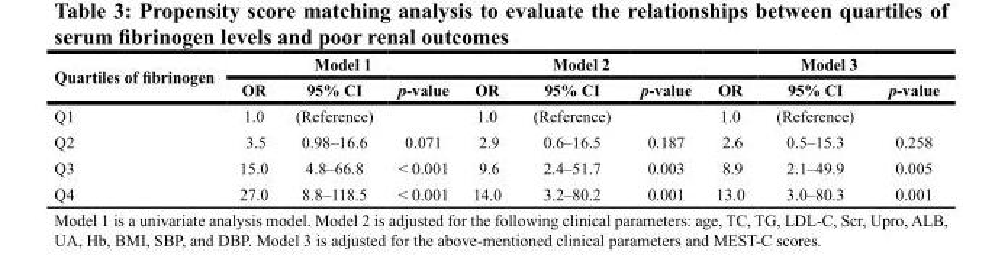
<table><thead><tr><td rowspan="2">Quartiles of fibrinogen</td><td colspan="3">Model 1</td><td colspan="3">Model 2</td><td colspan="3">Model 3</td></tr><tr><td>OR</td><td>95% CI</td><td>p-value</td><td>OR</td><td>95% CI</td><td>p-value</td><td>OR</td><td>95% CI</td><td>p-value</td></tr></thead><tbody><tr><td>Q1</td><td>1.0</td><td>(Reference)</td><td></td><td>1.0</td><td>(Reference)</td><td></td><td>1.0</td><td>(Reference)</td><td></td></tr><tr><td>Q2</td><td>3.5</td><td>0.98–16.6</td><td>0.071</td><td>2.9</td><td>0.6–16.5</td><td>0.187</td><td>2.6</td><td>0.5–15.3</td><td>0.258</td></tr><tr><td>Q3</td><td>15.0</td><td>4.8–66.8</td><td>&lt; 0.001</td><td>9.6</td><td>2.4–51.7</td><td>0.003</td><td>8.9</td><td>2.1–49.9</td><td>0.005</td></tr><tr><td>Q4</td><td>27.0</td><td>8.8–118.5</td><td>&lt; 0.001</td><td>14.0</td><td>3.2–80.2</td><td>0.001</td><td>13.0</td><td>3.0–80.3</td><td>0.001</td></tr></tbody></table>